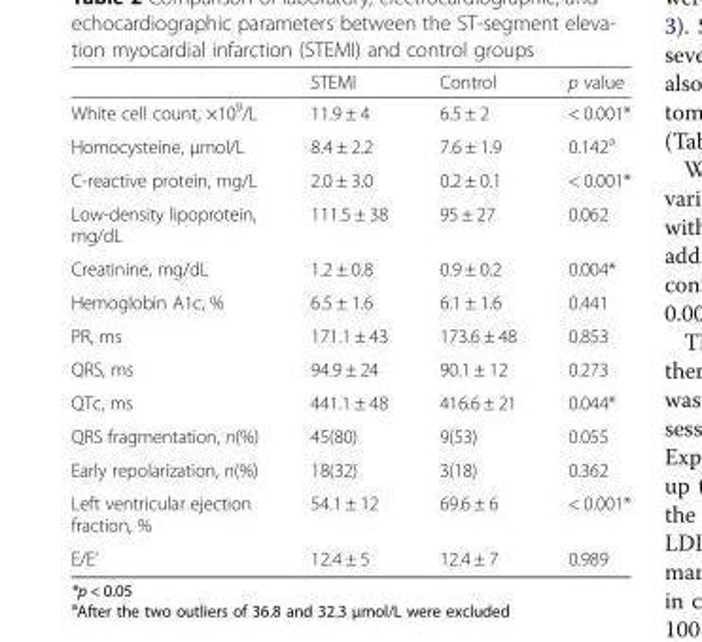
<table><thead><tr><td></td><td>STEMI</td><td>Control</td><td>p value</td></tr></thead><tbody><tr><td>White cell count, ×10<sup>9</sup>/L</td><td>11.9 ± 4</td><td>6.5 ± 2</td><td>&lt; 0.001*</td></tr><tr><td>Homocysteine, μmol/L</td><td>8.4 ± 2.2</td><td>7.6 ± 1.9</td><td>0.142<sup>a</sup></td></tr><tr><td>C-reactive protein, mg/L</td><td>2.0 ± 3.0</td><td>0.2 ± 0.1</td><td>&lt; 0.001*</td></tr><tr><td>Low-density lipoprotein, mg/dL</td><td>111.5 ± 38</td><td>95 ± 27</td><td>0.062</td></tr><tr><td>Creatinine, mg/dL</td><td>1.2 ± 0.8</td><td>0.9 ± 0.2</td><td>0.004*</td></tr><tr><td>Hemoglobin A1c, %</td><td>6.5 ± 1.6</td><td>6.1 ± 1.6</td><td>0.441</td></tr><tr><td>PR, ms</td><td>171.1 ± 43</td><td>173.6 ± 48</td><td>0.853</td></tr><tr><td>QRS, ms</td><td>94.9 ± 24</td><td>90.1 ± 12</td><td>0.273</td></tr><tr><td>QTc, ms</td><td>441.1 ± 48</td><td>416.6 ± 21</td><td>0.044*</td></tr><tr><td>QRS fragmentation, n(%)</td><td>45(80)</td><td>9(53)</td><td>0.055</td></tr><tr><td>Early repolarization, n(%)</td><td>18(32)</td><td>3(18)</td><td>0.362</td></tr><tr><td>Left ventricular ejection fraction, %</td><td>54.1 ± 12</td><td>69.6 ± 6</td><td>&lt; 0.001*</td></tr><tr><td>E/E’</td><td>12.4 ± 5</td><td>12.4 ± 7</td><td>0.989</td></tr></tbody></table>